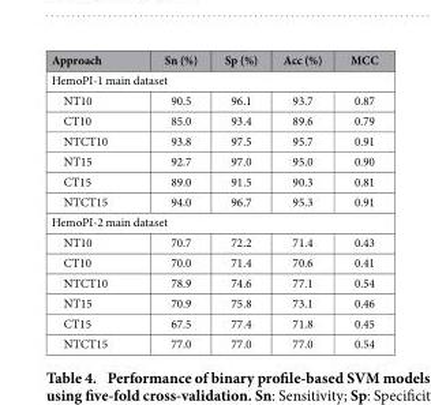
<table><thead><tr><td>Approach</td><td>Sn (%)</td><td>Sp (%)</td><td>Acc (%)</td><td>MCC</td></tr></thead><tbody><tr><td colspan="5">HemoPI-1 main dataset</td></tr><tr><td>NT10</td><td>90.5</td><td>96.1</td><td>93.7</td><td>0.87</td></tr><tr><td>CT10</td><td>85.0</td><td>93.4</td><td>89.6</td><td>0.79</td></tr><tr><td>NTCT10</td><td>93.8</td><td>97.5</td><td>95.7</td><td>0.91</td></tr><tr><td>NT15</td><td>92.7</td><td>97.0</td><td>95.0</td><td>0.90</td></tr><tr><td>CT15</td><td>89.0</td><td>91.5</td><td>90.3</td><td>0.81</td></tr><tr><td>NTCT15</td><td>94.0</td><td>96.7</td><td>95.3</td><td>0.91</td></tr><tr><td colspan="5">HemoPI-2 main dataset</td></tr><tr><td>NT10</td><td>70.7</td><td>72.2</td><td>71.4</td><td>0.43</td></tr><tr><td>CT10</td><td>70.0</td><td>71.4</td><td>70.6</td><td>0.41</td></tr><tr><td>NTCT10</td><td>78.9</td><td>74.6</td><td>77.1</td><td>0.54</td></tr><tr><td>NT15</td><td>70.9</td><td>75.8</td><td>73.1</td><td>0.46</td></tr><tr><td>CT15</td><td>67.5</td><td>77.4</td><td>71.8</td><td>0.45</td></tr><tr><td>NTCT15</td><td>77.0</td><td>77.0</td><td>77.0</td><td>0.54</td></tr></tbody></table>